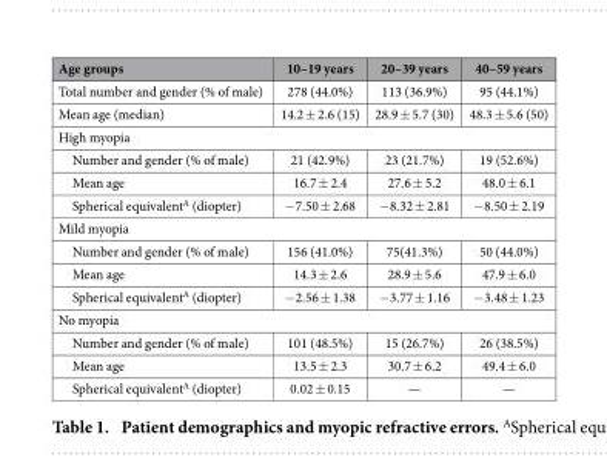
<table><thead><tr><td>Age groups</td><td>10–19 years</td><td>20–39 years</td><td>40–59 years</td></tr></thead><tbody><tr><td>Total number and gender (% of male)</td><td>278 (44.0%)</td><td>113 (36.9%)</td><td>95 (44.1%)</td></tr><tr><td>Mean age (median)</td><td>14.2 ± 2.6 (15)</td><td>28.9 ± 5.7 (30)</td><td>48.3 ± 5.6 (50)</td></tr><tr><td colspan="4">High myopia</td></tr><tr><td>Number and gender (% of male)</td><td>21 (42.9%)</td><td>23 (21.7%)</td><td>19 (52.6%)</td></tr><tr><td>Mean age</td><td>16.7 ± 2.4</td><td>27.6 ± 5.2</td><td>48.0 ± 6.1</td></tr><tr><td>Spherical equivalent<sup>A</sup> (diopter)</td><td>− 7.50 ± 2.68</td><td>− 8.32 ± 2.81</td><td>− 8.50 ± 2.19</td></tr><tr><td colspan="4">Mild myopia</td></tr><tr><td>Number and gender (% of male)</td><td>156 (41.0%)</td><td>75(41.3%)</td><td>50 (44.0%)</td></tr><tr><td>Mean age</td><td>14.3 ± 2.6</td><td>28.9 ± 5.6</td><td>47.9 ± 6.0</td></tr><tr><td>Spherical equivalent<sup>A</sup> (diopter)</td><td>− 2.56 ± 1.38</td><td>− 3.77 ± 1.16</td><td>− 3.48 ± 1.23</td></tr><tr><td colspan="4">No myopia</td></tr><tr><td>Number and gender (% of male)</td><td>101 (48.5%)</td><td>15 (26.7%)</td><td>26 (38.5%)</td></tr><tr><td>Mean age</td><td>13.5 ± 2.3</td><td>30.7 ± 6.2</td><td>49.4 ± 6.0</td></tr><tr><td>Spherical equivalent<sup>A</sup> (diopter)</td><td>0.02 ± 0.15</td><td>—</td><td>—</td></tr></tbody></table>